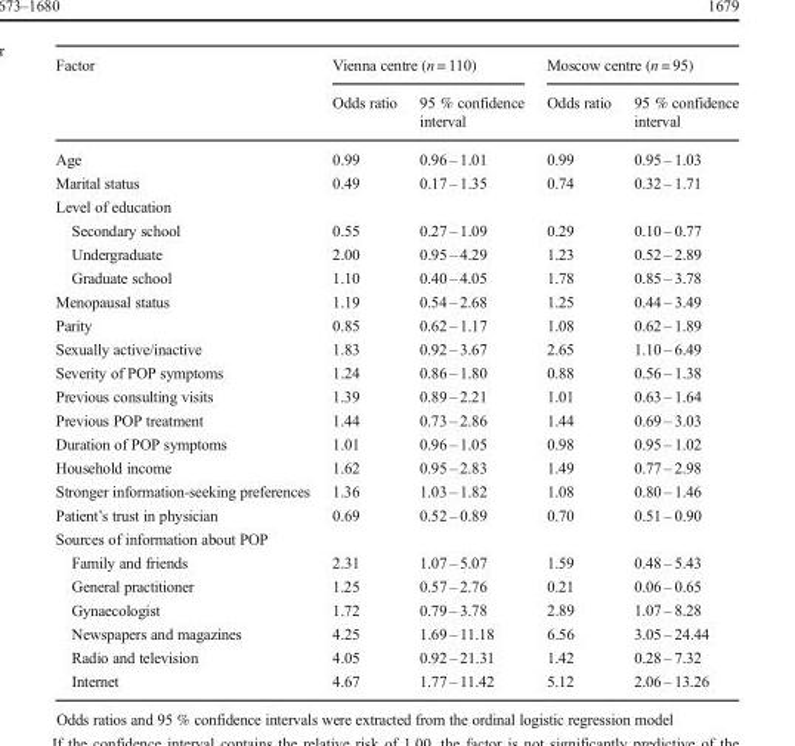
<table><thead><tr><td rowspan="2">Factor</td><td colspan="2">Vienna centre (n = 110)</td><td colspan="2">Moscow centre (n = 95)</td></tr><tr><td>Odds ratio</td><td>95 % confidence interval</td><td>Odds ratio</td><td>95 % confidence interval</td></tr></thead><tbody><tr><td>Age</td><td>0.99</td><td>0.96 – 1.01</td><td>0.99</td><td>0.95 – 1.03</td></tr><tr><td>Marital status</td><td>0.49</td><td>0.17 – 1.35</td><td>0.74</td><td>0.32 – 1.71</td></tr><tr><td colspan="5">Level of education</td></tr><tr><td>Secondary school</td><td>0.55</td><td>0.27 – 1.09</td><td>0.29</td><td>0.10 – 0.77</td></tr><tr><td>Undergraduate</td><td>2.00</td><td>0.95 – 4.29</td><td>1.23</td><td>0.52 – 2.89</td></tr><tr><td>Graduate school</td><td>1.10</td><td>0.40 – 4.05</td><td>1.78</td><td>0.85 – 3.78</td></tr><tr><td>Menopausal status</td><td>1.19</td><td>0.54 – 2.68</td><td>1.25</td><td>0.44 – 3.49</td></tr><tr><td>Parity</td><td>0.85</td><td>0.62 – 1.17</td><td>1.08</td><td>0.62 – 1.89</td></tr><tr><td>Sexually active/inactive</td><td>1.83</td><td>0.92 – 3.67</td><td>2.65</td><td>1.10 – 6.49</td></tr><tr><td>Severity of POP symptoms</td><td>1.24</td><td>0.86 – 1.80</td><td>0.88</td><td>0.56 – 1.38</td></tr><tr><td>Previous consulting visits</td><td>1.39</td><td>0.89 – 2.21</td><td>1.01</td><td>0.63 – 1.64</td></tr><tr><td>Previous POP treatment</td><td>1.44</td><td>0.73 – 2.86</td><td>1.44</td><td>0.69 – 3.03</td></tr><tr><td>Duration of POP symptoms</td><td>1.01</td><td>0.96 – 1.05</td><td>0.98</td><td>0.95 – 1.02</td></tr><tr><td>Household income</td><td>1.62</td><td>0.95 – 2.83</td><td>1.49</td><td>0.77 – 2.98</td></tr><tr><td>Stronger information-seeking preferences</td><td>1.36</td><td>1.03 – 1.82</td><td>1.08</td><td>0.80 – 1.46</td></tr><tr><td>Patient’s trust in physician</td><td>0.69</td><td>0.52 – 0.89</td><td>0.70</td><td>0.51 – 0.90</td></tr><tr><td colspan="5">Sources of information about POP</td></tr><tr><td>Family and friends</td><td>2.31</td><td>1.07 – 5.07</td><td>1.59</td><td>0.48 – 5.43</td></tr><tr><td>General practitioner</td><td>1.25</td><td>0.57 – 2.76</td><td>0.21</td><td>0.06 – 0.65</td></tr><tr><td>Gynaecologist</td><td>1.72</td><td>0.79 – 3.78</td><td>2.89</td><td>1.07 – 8.28</td></tr><tr><td>Newspapers and magazines</td><td>4.25</td><td>1.69 – 11.18</td><td>6.56</td><td>3.05 – 24.44</td></tr><tr><td>Radio and television</td><td>4.05</td><td>0.92 – 21.31</td><td>1.42</td><td>0.28 – 7.32</td></tr><tr><td>Internet</td><td>4.67</td><td>1.77 – 11.42</td><td>5.12</td><td>2.06 – 13.26</td></tr></tbody></table>